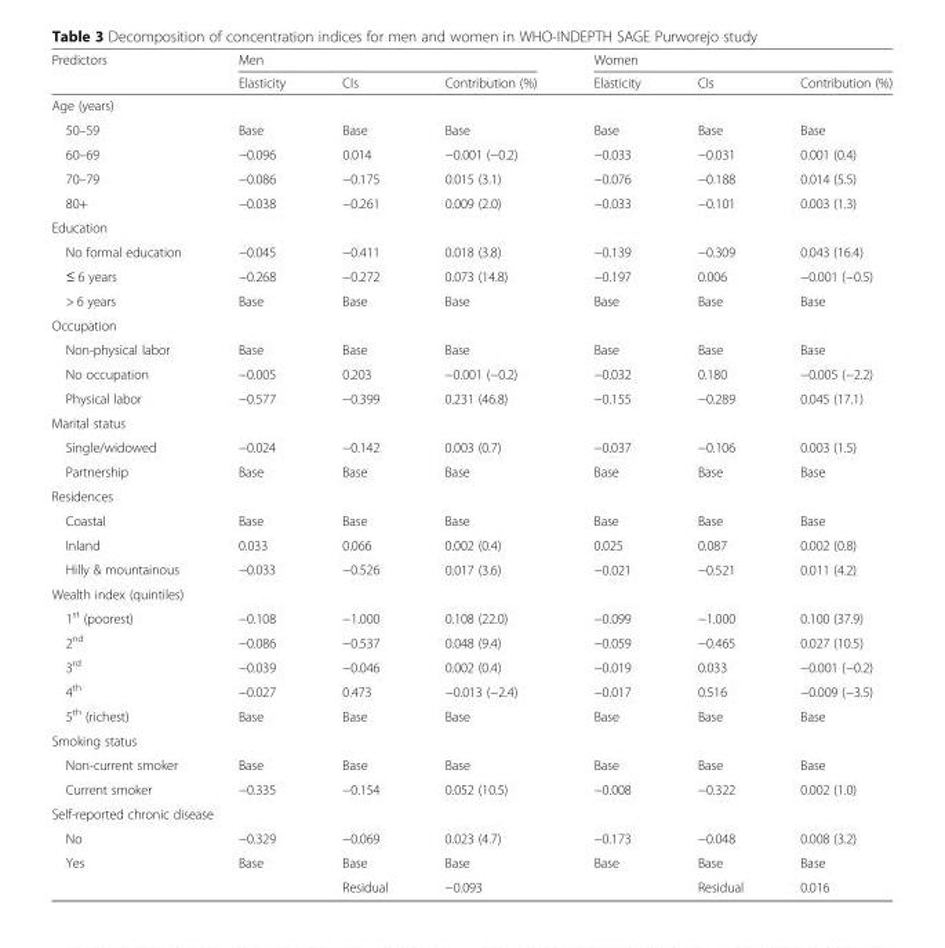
<table><thead><tr><td rowspan="2">Predictors</td><td colspan="3">Men</td><td colspan="3">Women</td></tr><tr><td>Elasticity</td><td>CIs</td><td>Contribution (%)</td><td>Elasticity</td><td>CIs</td><td>Contribution (%)</td></tr></thead><tbody><tr><td colspan="7">Age (years)</td></tr><tr><td>50–59</td><td>Base</td><td>Base</td><td>Base</td><td>Base</td><td>Base</td><td>Base</td></tr><tr><td>60–69</td><td>−0.096</td><td>0.014</td><td>−0.001 (−0.2)</td><td>−0.033</td><td>−0.031</td><td>0.001 (0.4)</td></tr><tr><td>70–79</td><td>−0.086</td><td>−0.175</td><td>0.015 (3.1)</td><td>−0.076</td><td>−0.188</td><td>0.014 (5.5)</td></tr><tr><td>80+</td><td>−0.038</td><td>−0.261</td><td>0.009 (2.0)</td><td>−0.033</td><td>−0.101</td><td>0.003 (1.3)</td></tr><tr><td colspan="7">Education</td></tr><tr><td>No formal education</td><td>−0.045</td><td>−0.411</td><td>0.018 (3.8)</td><td>−0.139</td><td>−0.309</td><td>0.043 (16.4)</td></tr><tr><td>≤ 6 years</td><td>−0.268</td><td>−0.272</td><td>0.073 (14.8)</td><td>−0.197</td><td>0.006</td><td>−0.001 (−0.5)</td></tr><tr><td>&gt; 6 years</td><td>Base</td><td>Base</td><td>Base</td><td>Base</td><td>Base</td><td>Base</td></tr><tr><td colspan="7">Occupation</td></tr><tr><td>Non-physical labor</td><td>Base</td><td>Base</td><td>Base</td><td>Base</td><td>Base</td><td>Base</td></tr><tr><td>No occupation</td><td>−0.005</td><td>0.203</td><td>−0.001 (−0.2)</td><td>−0.032</td><td>0.180</td><td>−0.005 (−2.2)</td></tr><tr><td>Physical labor</td><td>−0.577</td><td>−0.399</td><td>0.231 (46.8)</td><td>−0.155</td><td>−0.289</td><td>0.045 (17.1)</td></tr><tr><td colspan="7">Marital status</td></tr><tr><td>Single/widowed</td><td>−0.024</td><td>−0.142</td><td>0.003 (0.7)</td><td>−0.037</td><td>−0.106</td><td>0.003 (1.5)</td></tr><tr><td>Partnership</td><td>Base</td><td>Base</td><td>Base</td><td>Base</td><td>Base</td><td>Base</td></tr><tr><td colspan="7">Residences</td></tr><tr><td>Coastal</td><td>Base</td><td>Base</td><td>Base</td><td>Base</td><td>Base</td><td>Base</td></tr><tr><td>Inland</td><td>0.033</td><td>0.066</td><td>0.002 (0.4)</td><td>0.025</td><td>0.087</td><td>0.002 (0.8)</td></tr><tr><td>Hilly &amp; mountainous</td><td>−0.033</td><td>−0.526</td><td>0.017 (3.6)</td><td>−0.021</td><td>−0.521</td><td>0.011 (4.2)</td></tr><tr><td colspan="7">Wealth index (quintiles)</td></tr><tr><td>1<sup>st</sup> (poorest)</td><td>−0.108</td><td>−1.000</td><td>0.108 (22.0)</td><td>−0.099</td><td>−1.000</td><td>0.100 (37.9)</td></tr><tr><td>2<sup>nd</sup></td><td>−0.086</td><td>−0.537</td><td>0.048 (9.4)</td><td>−0.059</td><td>−0.465</td><td>0.027 (10.5)</td></tr><tr><td>3<sup>rd</sup></td><td>−0.039</td><td>−0.046</td><td>0.002 (0.4)</td><td>−0.019</td><td>0.033</td><td>−0.001 (−0.2)</td></tr><tr><td>4<sup>th</sup></td><td>−0.027</td><td>0.473</td><td>−0.013 (−2.4)</td><td>−0.017</td><td>0.516</td><td>−0.009 (−3.5)</td></tr><tr><td>5<sup>th</sup> (richest)</td><td>Base</td><td>Base</td><td>Base</td><td>Base</td><td>Base</td><td>Base</td></tr><tr><td colspan="7">Smoking status</td></tr><tr><td>Non-current smoker</td><td>Base</td><td>Base</td><td>Base</td><td>Base</td><td>Base</td><td>Base</td></tr><tr><td>Current smoker</td><td>−0.335</td><td>−0.154</td><td>0.052 (10.5)</td><td>−0.008</td><td>−0.322</td><td>0.002 (1.0)</td></tr><tr><td colspan="7">Self-reported chronic disease</td></tr><tr><td>No</td><td>−0.329</td><td>−0.069</td><td>0.023 (4.7)</td><td>−0.173</td><td>−0.048</td><td>0.008 (3.2)</td></tr><tr><td rowspan="2">Yes</td><td>Base</td><td>Base</td><td>Base</td><td>Base</td><td>Base</td><td>Base</td></tr><tr><td></td><td>Residual</td><td>−0.093</td><td></td><td>Residual</td><td>0.016</td></tr></tbody></table>